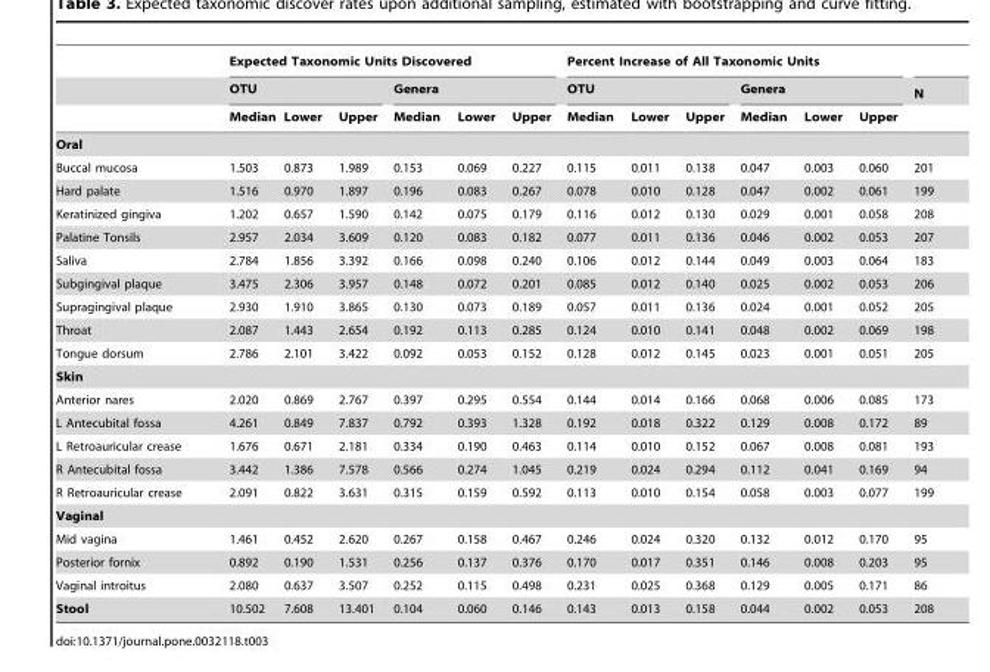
<table><thead><tr><td rowspan="3"></td><td colspan="6">Expected Taxonomic Units Discovered</td><td colspan="6">Percent Increase of All Taxonomic Units</td><td rowspan="3">N</td></tr><tr><td colspan="3">OTU</td><td colspan="3">Genera</td><td colspan="3">OTU</td><td colspan="3">Genera</td></tr><tr><td>Median</td><td>Lower</td><td>Upper</td><td>Median</td><td>Lower</td><td>Upper</td><td>Median</td><td>Lower</td><td>Upper</td><td>Median</td><td>Lower</td><td>Upper</td></tr></thead><tbody><tr><td colspan="14">Oral</td></tr><tr><td>Buccal mucosa</td><td>1.503</td><td>0.873</td><td>1.989</td><td>0.153</td><td>0.069</td><td>0.227</td><td>0.115</td><td>0.011</td><td>0.138</td><td>0.047</td><td>0.003</td><td>0.060</td><td>201</td></tr><tr><td>Hard palate</td><td>1.516</td><td>0.970</td><td>1.897</td><td>0.196</td><td>0.083</td><td>0.267</td><td>0.078</td><td>0.010</td><td>0.128</td><td>0.047</td><td>0.002</td><td>0.061</td><td>199</td></tr><tr><td>Keratinized gingiva</td><td>1.202</td><td>0.657</td><td>1.590</td><td>0.142</td><td>0.075</td><td>0.179</td><td>0.116</td><td>0.012</td><td>0.130</td><td>0.029</td><td>0.001</td><td>0.058</td><td>208</td></tr><tr><td>Palatine Tonsils</td><td>2.957</td><td>2.034</td><td>3.609</td><td>0.120</td><td>0.083</td><td>0.182</td><td>0.077</td><td>0.011</td><td>0.136</td><td>0.046</td><td>0.002</td><td>0.053</td><td>207</td></tr><tr><td>Saliva</td><td>2.784</td><td>1.856</td><td>3.392</td><td>0.166</td><td>0.098</td><td>0.240</td><td>0.106</td><td>0.012</td><td>0.144</td><td>0.049</td><td>0.003</td><td>0.064</td><td>183</td></tr><tr><td>Subgingival plaque</td><td>3.475</td><td>2.306</td><td>3.957</td><td>0.148</td><td>0.072</td><td>0.201</td><td>0.085</td><td>0.012</td><td>0.140</td><td>0.025</td><td>0.002</td><td>0.053</td><td>206</td></tr><tr><td>Supragingival plaque</td><td>2.930</td><td>1.910</td><td>3.865</td><td>0.130</td><td>0.073</td><td>0.189</td><td>0.057</td><td>0.011</td><td>0.136</td><td>0.024</td><td>0.001</td><td>0.052</td><td>205</td></tr><tr><td>Throat</td><td>2.087</td><td>1.443</td><td>2.654</td><td>0.192</td><td>0.113</td><td>0.285</td><td>0.124</td><td>0.010</td><td>0.141</td><td>0.048</td><td>0.002</td><td>0.069</td><td>198</td></tr><tr><td>Tongue dorsum</td><td>2.786</td><td>2.101</td><td>3.422</td><td>0.092</td><td>0.053</td><td>0.152</td><td>0.128</td><td>0.012</td><td>0.145</td><td>0.023</td><td>0.001</td><td>0.051</td><td>205</td></tr><tr><td colspan="14">Skin</td></tr><tr><td>Anterior nares</td><td>2.020</td><td>0.869</td><td>2.767</td><td>0.397</td><td>0.295</td><td>0.554</td><td>0.144</td><td>0.014</td><td>0.166</td><td>0.068</td><td>0.006</td><td>0.085</td><td>173</td></tr><tr><td>L Antecubital fossa</td><td>4.261</td><td>0.849</td><td>7.837</td><td>0.792</td><td>0.393</td><td>1.328</td><td>0.192</td><td>0.018</td><td>0.322</td><td>0.129</td><td>0.008</td><td>0.172</td><td>89</td></tr><tr><td>L Retroauricular crease</td><td>1.676</td><td>0.671</td><td>2.181</td><td>0.334</td><td>0.190</td><td>0.463</td><td>0.114</td><td>0.010</td><td>0.152</td><td>0.067</td><td>0.008</td><td>0.081</td><td>193</td></tr><tr><td>R Antecubital fossa</td><td>3.442</td><td>1.386</td><td>7.578</td><td>0.566</td><td>0.274</td><td>1.045</td><td>0.219</td><td>0.024</td><td>0.294</td><td>0.112</td><td>0.041</td><td>0.169</td><td>94</td></tr><tr><td>R Retroauricular crease</td><td>2.091</td><td>0.822</td><td>3.631</td><td>0.315</td><td>0.159</td><td>0.592</td><td>0.113</td><td>0.010</td><td>0.154</td><td>0.058</td><td>0.003</td><td>0.077</td><td>199</td></tr><tr><td colspan="14">Vaginal</td></tr><tr><td>Mid vagina</td><td>1.461</td><td>0.452</td><td>2.620</td><td>0.267</td><td>0.158</td><td>0.467</td><td>0.246</td><td>0.024</td><td>0.320</td><td>0.132</td><td>0.012</td><td>0.170</td><td>95</td></tr><tr><td>Posterior fornix</td><td>0.892</td><td>0.190</td><td>1.531</td><td>0.256</td><td>0.137</td><td>0.376</td><td>0.170</td><td>0.017</td><td>0.351</td><td>0.146</td><td>0.008</td><td>0.203</td><td>95</td></tr><tr><td>Vaginal introitus</td><td>2.080</td><td>0.637</td><td>3.507</td><td>0.252</td><td>0.115</td><td>0.498</td><td>0.231</td><td>0.025</td><td>0.368</td><td>0.129</td><td>0.005</td><td>0.171</td><td>86</td></tr><tr><td>Stool</td><td>10.502</td><td>7.608</td><td>13.401</td><td>0.104</td><td>0.060</td><td>0.146</td><td>0.143</td><td>0.013</td><td>0.158</td><td>0.044</td><td>0.002</td><td>0.053</td><td>208</td></tr></tbody></table>